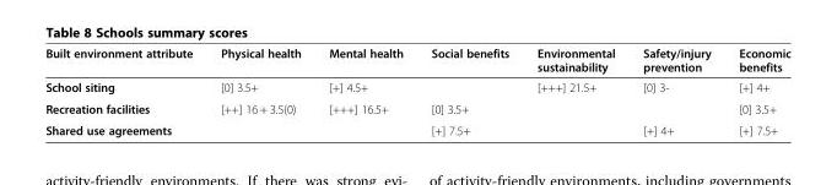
<table><thead><tr><td>Built environment attribute</td><td>Physical health</td><td>Mental health</td><td>Social benefits</td><td>Environmental sustainability</td><td>Safety/injury prevention</td><td>Economic benefits</td></tr></thead><tbody><tr><td>School siting</td><td>[0] 3.5+</td><td>[+] 4.5+</td><td></td><td>[+++] 21.5+</td><td>[0] 3-</td><td>[+] 4+</td></tr><tr><td>Recreation facilities</td><td>[++] 16 + 3.5(0)</td><td>[+++] 16.5+</td><td>[0] 3.5+</td><td></td><td></td><td>[0] 3.5+</td></tr><tr><td>Shared use agreements</td><td></td><td></td><td>[+] 7.5+</td><td></td><td>[+] 4+</td><td>[+] 7.5+</td></tr></tbody></table>